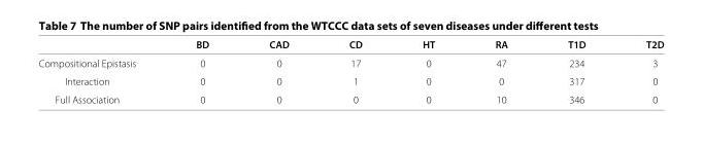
<table><thead><tr><td></td><td>BD</td><td>CAD</td><td>CD</td><td>HT</td><td>RA</td><td>T1D</td><td>T2D</td></tr></thead><tbody><tr><td>Compositional Epistasis</td><td>0</td><td>0</td><td>17</td><td>0</td><td>47</td><td>234</td><td>3</td></tr><tr><td>Interaction</td><td>0</td><td>0</td><td>1</td><td>0</td><td>0</td><td>317</td><td>0</td></tr><tr><td>Full Association</td><td>0</td><td>0</td><td>0</td><td>0</td><td>10</td><td>346</td><td>0</td></tr></tbody></table>